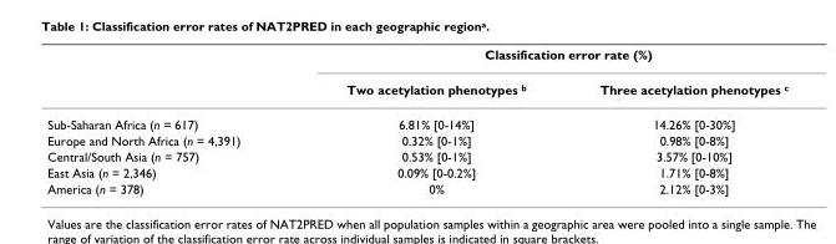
<table><thead><tr><td rowspan="2"></td><td colspan="2">Classification error rate (%)</td></tr><tr><td>Two acetylation phenotypes <sup>b</sup></td><td>Three acetylation phenotypes <sup>c</sup></td></tr></thead><tbody><tr><td>Sub-Saharan Africa (n = 617)</td><td>6.81% [0-14%]</td><td>14.26% [0-30%]</td></tr><tr><td>Europe and North Africa (n = 4,391)</td><td>0.32% [0-1%]</td><td>0.98% [0-8%]</td></tr><tr><td>Central/South Asia (n = 757)</td><td>0.53% [0-1%]</td><td>3.57% [0-10%]</td></tr><tr><td>East Asia (n = 2,346)</td><td>0.09% [0-0.2%]</td><td>1.71% [0-8%]</td></tr><tr><td>America (n = 378)</td><td>0%</td><td>2.12% [0-3%]</td></tr></tbody></table>